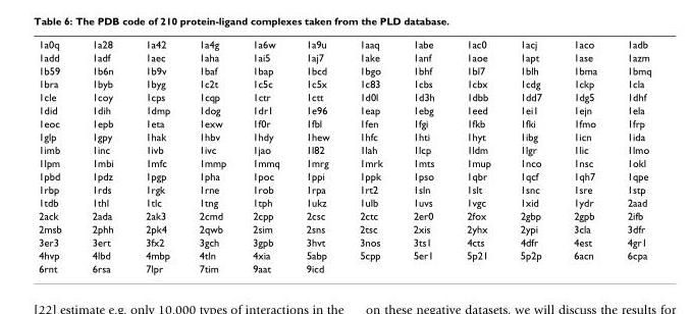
<table><tbody><tr><td>1a0q</td><td>1a28</td><td>1a42</td><td>1a4g</td><td>1a6w</td><td>1a9u</td><td>1aaq</td><td>1abe</td><td>1ac0</td><td>1acj</td><td>1aco</td><td>1adb</td></tr><tr><td>1add</td><td>1adf</td><td>1aec</td><td>1aha</td><td>1ai5</td><td>1aj7</td><td>1ake</td><td>1anf</td><td>1aoe</td><td>1apt</td><td>1ase</td><td>1azm</td></tr><tr><td>1b59</td><td>1b6n</td><td>1b9v</td><td>1baf</td><td>1bap</td><td>1bcd</td><td>1bgo</td><td>1bhf</td><td>1bl7</td><td>1blh</td><td>1bma</td><td>1bmq</td></tr><tr><td>1bra</td><td>1byb</td><td>1byg</td><td>1c2t</td><td>1c5c</td><td>1c5x</td><td>1c83</td><td>1cbs</td><td>1cbx</td><td>1cdg</td><td>1ckp</td><td>1cla</td></tr><tr><td>1cle</td><td>1coy</td><td>1cps</td><td>1cqp</td><td>1ctr</td><td>1ctt</td><td>1d0l</td><td>1d3h</td><td>1dbb</td><td>1dd7</td><td>1dg5</td><td>1dhf</td></tr><tr><td>1did</td><td>1dih</td><td>1dmp</td><td>1dog</td><td>1dr1</td><td>1e96</td><td>1eap</td><td>1ebg</td><td>1eed</td><td>1ei1</td><td>1ejn</td><td>1ela</td></tr><tr><td>1eoc</td><td>1epb</td><td>1eta</td><td>1exw</td><td>1f0r</td><td>1fbl</td><td>1fen</td><td>1fgi</td><td>1fkb</td><td>1fki</td><td>1fmo</td><td>1frp</td></tr><tr><td>1glp</td><td>1gpy</td><td>1hak</td><td>1hbv</td><td>1hdy</td><td>1hew</td><td>1hfc</td><td>1hti</td><td>1hyt</td><td>1ibg</td><td>1icn</td><td>1ida</td></tr><tr><td>1imb</td><td>1inc</td><td>1ivb</td><td>1ivc</td><td>1jao</td><td>1l82</td><td>1lah</td><td>1lcp</td><td>1ldm</td><td>1lgr</td><td>1lic</td><td>1lmo</td></tr><tr><td>1lpm</td><td>1mbi</td><td>1mfc</td><td>1mmp</td><td>1mmq</td><td>1mrg</td><td>1mrk</td><td>1mts</td><td>1mup</td><td>1nco</td><td>1nsc</td><td>1okl</td></tr><tr><td>1pbd</td><td>1pdz</td><td>1pgp</td><td>1pha</td><td>1poc</td><td>1ppi</td><td>1ppk</td><td>1pso</td><td>1qbr</td><td>1qcf</td><td>1qh7</td><td>1qpe</td></tr><tr><td>1rbp</td><td>1rds</td><td>1rgk</td><td>1rne</td><td>1rob</td><td>1rpa</td><td>1rt2</td><td>1sln</td><td>1slt</td><td>1snc</td><td>1sre</td><td>1stp</td></tr><tr><td>1tdb</td><td>1thl</td><td>1tlc</td><td>1tng</td><td>1tph</td><td>1ukz</td><td>1ulb</td><td>1uvs</td><td>1vgc</td><td>1xid</td><td>1ydr</td><td>2aad</td></tr><tr><td>2ack</td><td>2ada</td><td>2ak3</td><td>2cmd</td><td>2cpp</td><td>2csc</td><td>2ctc</td><td>2er0</td><td>2fox</td><td>2gbp</td><td>2gpb</td><td>2ifb</td></tr><tr><td>2msb</td><td>2phh</td><td>2pk4</td><td>2qwb</td><td>2sim</td><td>2sns</td><td>2tsc</td><td>2xis</td><td>2yhx</td><td>2ypi</td><td>3cla</td><td>3dfr</td></tr><tr><td>3er3</td><td>3ert</td><td>3fx2</td><td>3gch</td><td>3gpb</td><td>3hvt</td><td>3nos</td><td>3ts1</td><td>4cts</td><td>4dfr</td><td>4est</td><td>4gr1</td></tr><tr><td>4hvp</td><td>4lbd</td><td>4mbp</td><td>4tln</td><td>4xia</td><td>5abp</td><td>5cpp</td><td>5er1</td><td>5p21</td><td>5p2p</td><td>6acn</td><td>6cpa</td></tr><tr><td>6rnt</td><td>6rsa</td><td>7lpr</td><td>7tim</td><td>9aat</td><td>9icd</td><td></td><td></td><td></td><td></td><td></td><td></td></tr></tbody></table>